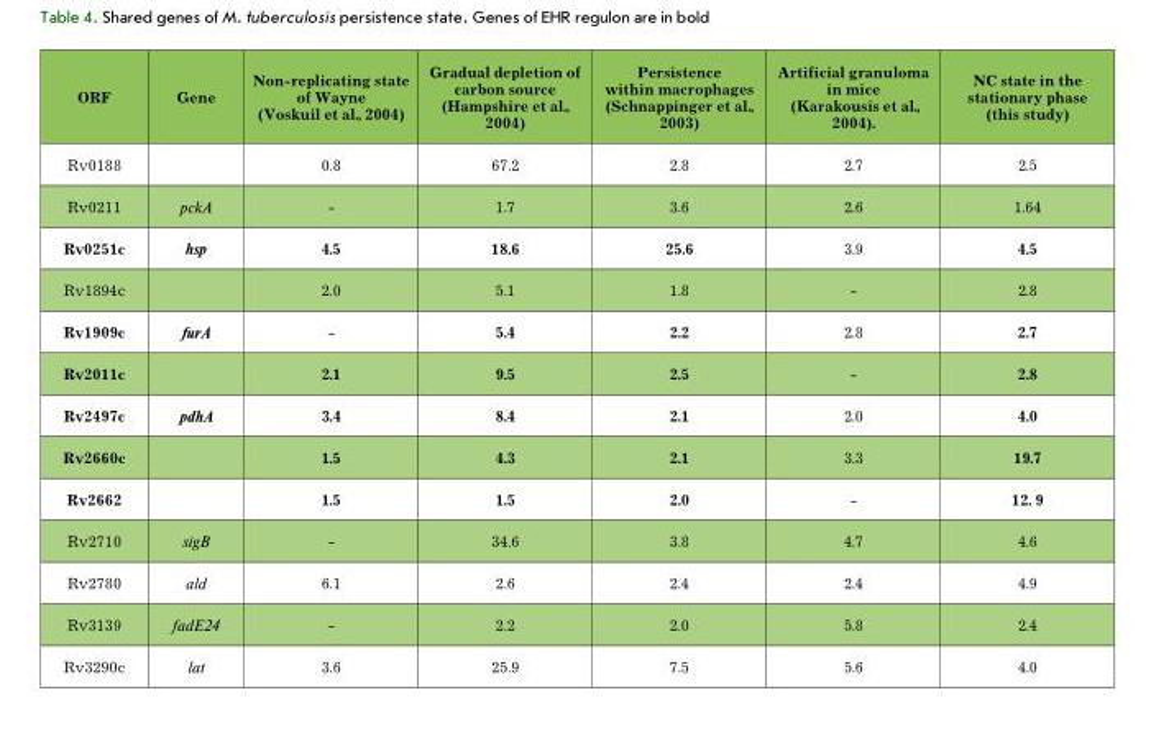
<table><thead><tr><td>ORF</td><td>Gene</td><td>Non-replicating state of Wayne (Voskuil et al., 2004)</td><td>Gradual depletion of carbon source (Hampshire et al., 2004)</td><td>Persistence within macrophages (Schnappinger et al., 2003)</td><td>Artificial granuloma in mice (Karakousis et al., 2004).</td><td>NC state in the stationary phase (this study)</td></tr></thead><tbody><tr><td>rv0188</td><td></td><td>0.8</td><td>67.2</td><td>2.8</td><td>2.7</td><td>2.5</td></tr><tr><td>rv0211</td><td>pckA</td><td>-</td><td>1.7</td><td>3.6</td><td>2.6</td><td>1.64</td></tr><tr><td>Rv0251c</td><td>hsp</td><td>4.5</td><td>18.6</td><td>25.6</td><td>3.9</td><td>4.5</td></tr><tr><td>rv1894c</td><td></td><td>2.0</td><td>5.1</td><td>1.8</td><td>-</td><td>2.8</td></tr><tr><td>Rv1909c</td><td>furA</td><td>-</td><td>5.4</td><td>2.2</td><td>2.8</td><td>2.7</td></tr><tr><td>Rv2011c</td><td></td><td>2.1</td><td>9.5</td><td>2.5</td><td>-</td><td>2.8</td></tr><tr><td>Rv2497c</td><td>pdhA</td><td>3.4</td><td>8.4</td><td>2.1</td><td>2.0</td><td>4.0</td></tr><tr><td>Rv2660c</td><td></td><td>1.5</td><td>4.3</td><td>2.1</td><td>3.3</td><td>19.7</td></tr><tr><td>Rv2662</td><td></td><td>1.5</td><td>1.5</td><td>2.0</td><td>-</td><td>12. 9</td></tr><tr><td>rv2710</td><td>sigB</td><td>-</td><td>34.6</td><td>3.8</td><td>4.7</td><td>4.6</td></tr><tr><td>rv2780</td><td>ald</td><td>6.1</td><td>2.6</td><td>2.4</td><td>2.4</td><td>4.9</td></tr><tr><td>rv3139</td><td>fadE24</td><td>-</td><td>2.2</td><td>2.0</td><td>5.8</td><td>2.4</td></tr><tr><td>rv3290c</td><td>lat</td><td>3.6</td><td>25.9</td><td>7.5</td><td>5.6</td><td>4.0</td></tr></tbody></table>